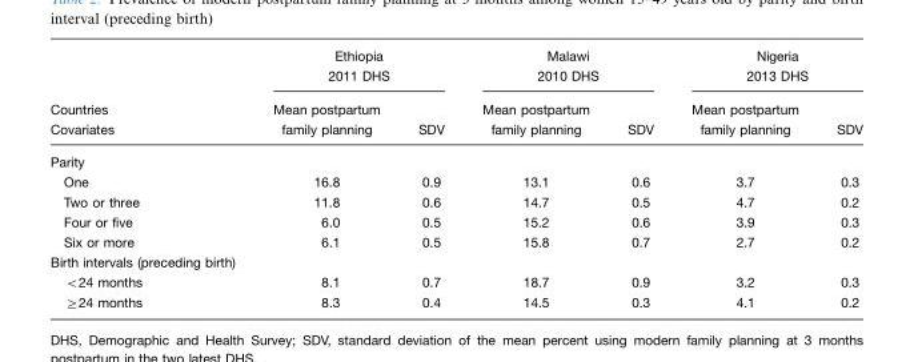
<table><thead><tr><td rowspan="2">Countries Covariates</td><td colspan="2">Ethiopia 2011 DHS</td><td colspan="2">Malawi 2010 DHS</td><td colspan="2">Nigeria 2013 DHS</td></tr><tr><td>Mean postpartum family planning</td><td>SDV</td><td>Mean postpartum family planning</td><td>SDV</td><td>Mean postpartum family planning</td><td>SDV</td></tr></thead><tbody><tr><td colspan="7">Parity</td></tr><tr><td>One</td><td>16.8</td><td>0.9</td><td>13.1</td><td>0.6</td><td>3.7</td><td>0.3</td></tr><tr><td>Two or three</td><td>11.8</td><td>0.6</td><td>14.7</td><td>0.5</td><td>4.7</td><td>0.2</td></tr><tr><td>Four or five</td><td>6.0</td><td>0.5</td><td>15.2</td><td>0.6</td><td>3.9</td><td>0.3</td></tr><tr><td>Six or more</td><td>6.1</td><td>0.5</td><td>15.8</td><td>0.7</td><td>2.7</td><td>0.2</td></tr><tr><td colspan="7">Birth intervals (preceding birth)</td></tr><tr><td>&lt;24 months</td><td>8.1</td><td>0.7</td><td>18.7</td><td>0.9</td><td>3.2</td><td>0.3</td></tr><tr><td>≥24 months</td><td>8.3</td><td>0.4</td><td>14.5</td><td>0.3</td><td>4.1</td><td>0.2</td></tr></tbody></table>